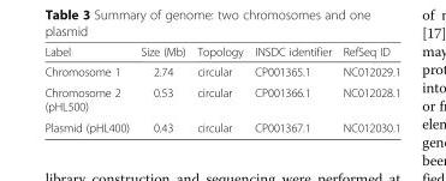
<table><thead><tr><td>Label</td><td>Size (Mb)</td><td>Topology</td><td>INSDC identifier</td><td>RefSeq ID</td></tr></thead><tbody><tr><td>Chromosome 1</td><td>2.74</td><td>circular</td><td>CP001365.1</td><td>NC012029.1</td></tr><tr><td>Chromosome 2 (pHL500)</td><td>0.53</td><td>circular</td><td>CP001366.1</td><td>NC012028.1</td></tr><tr><td>Plasmid (pHL400)</td><td>0.43</td><td>circular</td><td>CP001367.1</td><td>NC012030.1</td></tr></tbody></table>